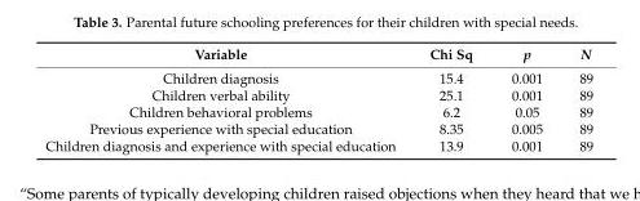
<table><thead><tr><td>Variable</td><td>Chi Sq</td><td>p</td><td>N</td></tr></thead><tbody><tr><td>Children diagnosis</td><td>15.4</td><td>0.001</td><td>89</td></tr><tr><td>Children verbal ability</td><td>25.1</td><td>0.001</td><td>89</td></tr><tr><td>Children behavioral problems</td><td>6.2</td><td>0.05</td><td>89</td></tr><tr><td>Previous experience with special education</td><td>8.35</td><td>0.005</td><td>89</td></tr><tr><td>Children diagnosis and experience with special education</td><td>13.9</td><td>0.001</td><td>89</td></tr></tbody></table>